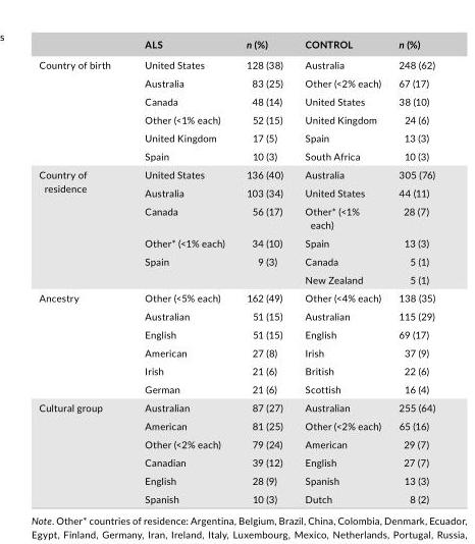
<table><thead><tr><td></td><td>ALS</td><td>n (%)</td><td>CONTROL</td><td>n (%)</td></tr></thead><tbody><tr><td rowspan="6">Country of birth</td><td>United States</td><td>128 (38)</td><td>Australia</td><td>248 (62)</td></tr><tr><td>Australia</td><td>83 (25)</td><td>Other (&lt;2% each)</td><td>67 (17)</td></tr><tr><td>Canada</td><td>48 (14)</td><td>United States</td><td>38 (10)</td></tr><tr><td>Other (&lt;1% each)</td><td>52 (15)</td><td>United Kingdom</td><td>24 (6)</td></tr><tr><td>United Kingdom</td><td>17 (5)</td><td>Spain</td><td>13 (3)</td></tr><tr><td>Spain</td><td>10 (3)</td><td>South Africa</td><td>10 (3)</td></tr><tr><td rowspan="6">Country of residence</td><td>United States</td><td>136 (40)</td><td>Australia</td><td>305 (76)</td></tr><tr><td>Australia</td><td>103 (34)</td><td>United States</td><td>44 (11)</td></tr><tr><td>Canada</td><td>56 (17)</td><td>Other* (&lt;1% each)</td><td>28 (7)</td></tr><tr><td>Other* (&lt;1% each)</td><td>34 (10)</td><td>Spain</td><td>13 (3)</td></tr><tr><td>Spain</td><td>9 (3)</td><td>Canada</td><td>5 (1)</td></tr><tr><td></td><td></td><td>New Zealand</td><td>5 (1)</td></tr><tr><td rowspan="6">Ancestry</td><td>Other (&lt;5% each)</td><td>162 (49)</td><td>Other (&lt;4% each)</td><td>138 (35)</td></tr><tr><td>Australian</td><td>51 (15)</td><td>Australian</td><td>115 (29)</td></tr><tr><td>English</td><td>51 (15)</td><td>English</td><td>69 (17)</td></tr><tr><td>American</td><td>27 (8)</td><td>Irish</td><td>37 (9)</td></tr><tr><td>Irish</td><td>21 (6)</td><td>British</td><td>22 (6)</td></tr><tr><td>German</td><td>21 (6)</td><td>Scottish</td><td>16 (4)</td></tr><tr><td rowspan="6">Cultural group</td><td>Australian</td><td>87 (27)</td><td>Australian</td><td>255 (64)</td></tr><tr><td>American</td><td>81 (25)</td><td>Other (&lt;2% each)</td><td>65 (16)</td></tr><tr><td>Other (&lt;2% each)</td><td>79 (24)</td><td>American</td><td>29 (7)</td></tr><tr><td>Canadian</td><td>39 (12)</td><td>English</td><td>27 (7)</td></tr><tr><td>English</td><td>28 (9)</td><td>Spanish</td><td>13 (3)</td></tr><tr><td>Spanish</td><td>10 (3)</td><td>Dutch</td><td>8 (2)</td></tr></tbody></table>